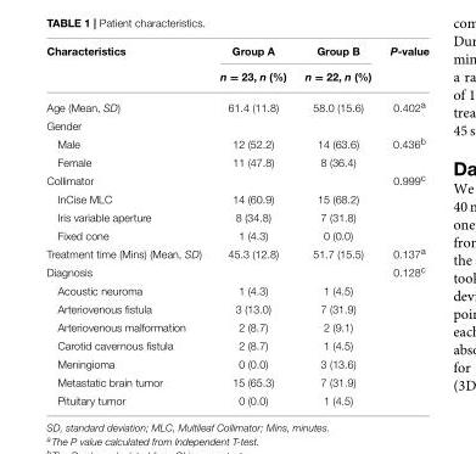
<table><thead><tr><td rowspan="2">Characteristics</td><td rowspan="2">Group A n = 23, n (%)</td><td rowspan="2">Group B n = 22, n (%)</td><td rowspan="2">P-value</td></tr><tr></tr></thead><tbody><tr><td>Age (Mean, SD)</td><td>61.4 (11.8)</td><td>58.0 (15.6)</td><td>0.402<sup>a</sup></td></tr><tr><td colspan="4">Gender</td></tr><tr><td>Male</td><td>12 (52.2)</td><td>14 (63.6)</td><td>0.436<sup>b</sup></td></tr><tr><td>Female</td><td>11 (47.8)</td><td>8 (36.4)</td><td></td></tr><tr><td>Collimator</td><td></td><td></td><td>0.999<sup>c</sup></td></tr><tr><td>InCise MLC</td><td>14 (60.9)</td><td>15 (68.2)</td><td></td></tr><tr><td>Iris variable aperture</td><td>8 (34.8)</td><td>7 (31.8)</td><td></td></tr><tr><td>Fixed cone</td><td>1 (4.3)</td><td>0 (0.0)</td><td></td></tr><tr><td>Treatment time (Mins) (Mean, SD)</td><td>45.3 (12.8)</td><td>51.7 (15.5)</td><td>0.137<sup>a</sup></td></tr><tr><td>Diagnosis</td><td></td><td></td><td>0.128<sup>c</sup></td></tr><tr><td>Acoustic neuroma</td><td>1 (4.3)</td><td>1 (4.5)</td><td></td></tr><tr><td>Arteriovenous fistula</td><td>3 (13.0)</td><td>7 (31.9)</td><td></td></tr><tr><td>Arteriovenous malformation</td><td>2 (8.7)</td><td>2 (9.1)</td><td></td></tr><tr><td>Carotid cavernous fistula</td><td>2 (8.7)</td><td>1 (4.5)</td><td></td></tr><tr><td>Meningioma</td><td>0 (0.0)</td><td>3 (13.6)</td><td></td></tr><tr><td>Metastatic brain tumor</td><td>15 (65.3)</td><td>7 (31.9)</td><td></td></tr><tr><td>Pituitary tumor</td><td>0 (0.0)</td><td>1 (4.5)</td><td></td></tr></tbody></table>